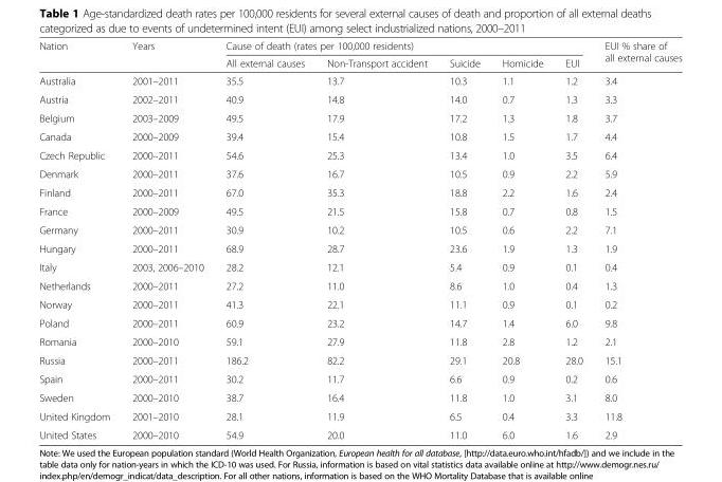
<table><thead><tr><td rowspan="2">Nation</td><td rowspan="2">Years</td><td colspan="5">Cause of death (rates per 100,000 residents)</td><td rowspan="2">EUI % share of all external causes</td></tr><tr><td>All external causes</td><td>Non-Transport accident</td><td>Suicide</td><td>Homicide</td><td>EUI</td></tr></thead><tbody><tr><td>Australia</td><td>2001–2011</td><td>35.5</td><td>13.7</td><td>10.3</td><td>1.1</td><td>1.2</td><td>3.4</td></tr><tr><td>Austria</td><td>2002–2011</td><td>40.9</td><td>14.8</td><td>14.0</td><td>0.7</td><td>1.3</td><td>3.3</td></tr><tr><td>Belgium</td><td>2003–2009</td><td>49.5</td><td>17.9</td><td>17.2</td><td>1.3</td><td>1.8</td><td>3.7</td></tr><tr><td>Canada</td><td>2000–2009</td><td>39.4</td><td>15.4</td><td>10.8</td><td>1.5</td><td>1.7</td><td>4.4</td></tr><tr><td>Czech Republic</td><td>2000–2011</td><td>54.6</td><td>25.3</td><td>13.4</td><td>1.0</td><td>3.5</td><td>6.4</td></tr><tr><td>Denmark</td><td>2000–2011</td><td>37.6</td><td>16.7</td><td>10.5</td><td>0.9</td><td>2.2</td><td>5.9</td></tr><tr><td>Finland</td><td>2000–2011</td><td>67.0</td><td>35.3</td><td>18.8</td><td>2.2</td><td>1.6</td><td>2.4</td></tr><tr><td>France</td><td>2000–2009</td><td>49.5</td><td>21.5</td><td>15.8</td><td>0.7</td><td>0.8</td><td>1.5</td></tr><tr><td>Germany</td><td>2000–2011</td><td>30.9</td><td>10.2</td><td>10.5</td><td>0.6</td><td>2.2</td><td>7.1</td></tr><tr><td>Hungary</td><td>2000–2011</td><td>68.9</td><td>28.7</td><td>23.6</td><td>1.9</td><td>1.3</td><td>1.9</td></tr><tr><td>Italy</td><td>2003, 2006–2010</td><td>28.2</td><td>12.1</td><td>5.4</td><td>0.9</td><td>0.1</td><td>0.4</td></tr><tr><td>Netherlands</td><td>2000–2011</td><td>27.2</td><td>11.0</td><td>8.6</td><td>1.0</td><td>0.4</td><td>1.3</td></tr><tr><td>Norway</td><td>2000–2011</td><td>41.3</td><td>22.1</td><td>11.1</td><td>0.9</td><td>0.1</td><td>0.2</td></tr><tr><td>Poland</td><td>2000–2011</td><td>60.9</td><td>23.2</td><td>14.7</td><td>1.4</td><td>6.0</td><td>9.8</td></tr><tr><td>Romania</td><td>2000–2010</td><td>59.1</td><td>27.9</td><td>11.8</td><td>2.8</td><td>1.2</td><td>2.1</td></tr><tr><td>Russia</td><td>2000–2011</td><td>186.2</td><td>82.2</td><td>29.1</td><td>20.8</td><td>28.0</td><td>15.1</td></tr><tr><td>Spain</td><td>2000–2011</td><td>30.2</td><td>11.7</td><td>6.6</td><td>0.9</td><td>0.2</td><td>0.6</td></tr><tr><td>Sweden</td><td>2000–2010</td><td>38.7</td><td>16.4</td><td>11.8</td><td>1.0</td><td>3.1</td><td>8.0</td></tr><tr><td>United Kingdom</td><td>2001–2010</td><td>28.1</td><td>11.9</td><td>6.5</td><td>0.4</td><td>3.3</td><td>11.8</td></tr><tr><td>United States</td><td>2000–2010</td><td>54.9</td><td>20.0</td><td>11.0</td><td>6.0</td><td>1.6</td><td>2.9</td></tr></tbody></table>